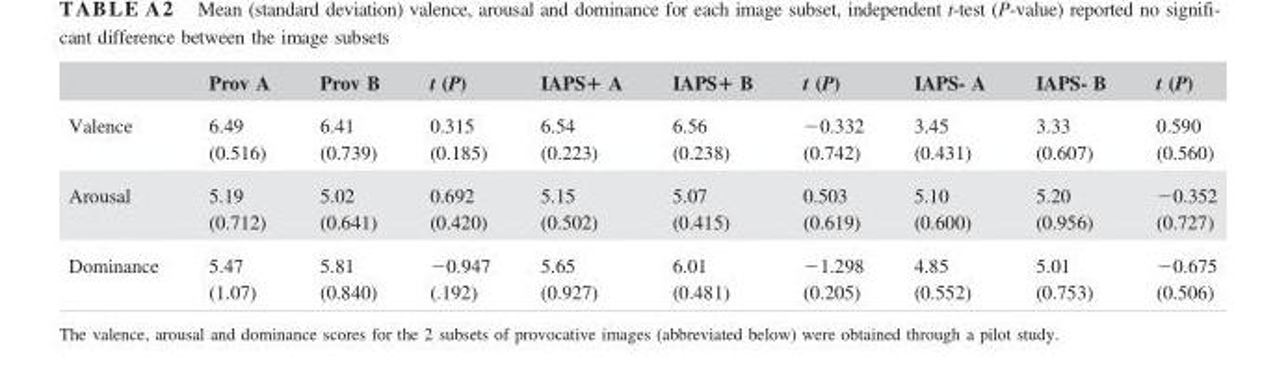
<table><thead><tr><td></td><td>Prov A</td><td>Prov B</td><td>t (P)</td><td>IAPS+ A</td><td>IAPS+ B</td><td>t (P)</td><td>IAPS- A</td><td>IAPS- B</td><td>t (P)</td></tr></thead><tbody><tr><td>Valence</td><td>6.49 (0.516)</td><td>6.41 (0.739)</td><td>0.315 (0.185)</td><td>6.54 (0.223)</td><td>6.56 (0.238)</td><td>−0.332 (0.742)</td><td>3.45 (0.431)</td><td>3.33 (0.607)</td><td>0.590 (0.560)</td></tr><tr><td>Arousal</td><td>5.19 (0.712)</td><td>5.02 (0.641)</td><td>0.692 (0.420)</td><td>5.15 (0.502)</td><td>5.07 (0.415)</td><td>0.503 (0.619)</td><td>5.10 (0.600)</td><td>5.20 (0.956)</td><td>−0.352 (0.727)</td></tr><tr><td>Dominance</td><td>5.47 (1.07)</td><td>5.81 (0.840)</td><td>−0.947 (.192)</td><td>5.65 (0.927)</td><td>6.01 (0.481)</td><td>−1.298 (0.205)</td><td>4.85 (0.552)</td><td>5.01 (0.753)</td><td>−0.675 (0.506)</td></tr></tbody></table>